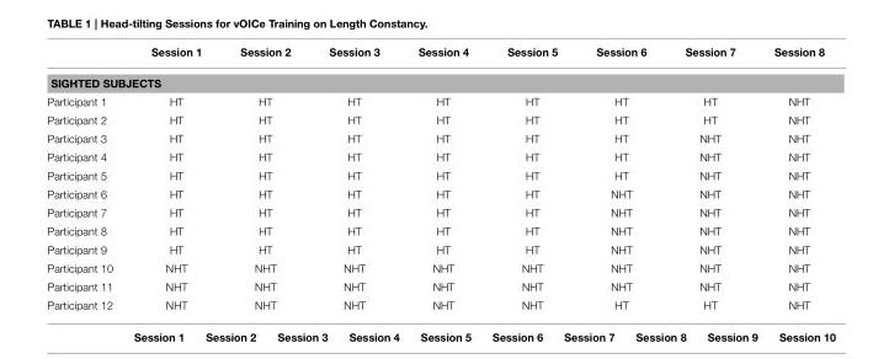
<table><thead><tr><td></td><td>Session 1</td><td>Session 2</td><td>Session 3</td><td>Session 4</td><td>Session 5</td><td>Session 6</td><td>Session 7</td><td>Session 8</td></tr></thead><tbody><tr><td colspan="9">SIGHTED SUBJECTS</td></tr><tr><td>Participant 1</td><td>HT</td><td>HT</td><td>HT</td><td>HT</td><td>HT</td><td>HT</td><td>HT</td><td>NHT</td></tr><tr><td>Participant 2</td><td>HT</td><td>HT</td><td>HT</td><td>HT</td><td>HT</td><td>HT</td><td>HT</td><td>NHT</td></tr><tr><td>Participant 3</td><td>HT</td><td>HT</td><td>HT</td><td>HT</td><td>HT</td><td>HT</td><td>NHT</td><td>NHT</td></tr><tr><td>Participant 4</td><td>HT</td><td>HT</td><td>HT</td><td>HT</td><td>HT</td><td>HT</td><td>NHT</td><td>NHT</td></tr><tr><td>Participant 5</td><td>HT</td><td>HT</td><td>HT</td><td>HT</td><td>HT</td><td>HT</td><td>NHT</td><td>NHT</td></tr><tr><td>Participant 6</td><td>HT</td><td>HT</td><td>HT</td><td>HT</td><td>HT</td><td>NHT</td><td>NHT</td><td>NHT</td></tr><tr><td>Participant 7</td><td>HT</td><td>HT</td><td>HT</td><td>HT</td><td>HT</td><td>NHT</td><td>NHT</td><td>NHT</td></tr><tr><td>Participant 8</td><td>HT</td><td>HT</td><td>HT</td><td>HT</td><td>HT</td><td>NHT</td><td>NHT</td><td>NHT</td></tr><tr><td>Participant 9</td><td>HT</td><td>HT</td><td>HT</td><td>HT</td><td>HT</td><td>NHT</td><td>NHT</td><td>NHT</td></tr><tr><td>Participant 10</td><td>NHT</td><td>NHT</td><td>NHT</td><td>NHT</td><td>NHT</td><td>NHT</td><td>NHT</td><td>NHT</td></tr><tr><td>Participant 11</td><td>NHT</td><td>NHT</td><td>NHT</td><td>NHT</td><td>NHT</td><td>NHT</td><td>NHT</td><td>NHT</td></tr><tr><td>Participant 12</td><td>NHT</td><td>NHT</td><td>NHT</td><td>NHT</td><td>NHT</td><td>HT</td><td>HT</td><td>NHT</td></tr></tbody></table>